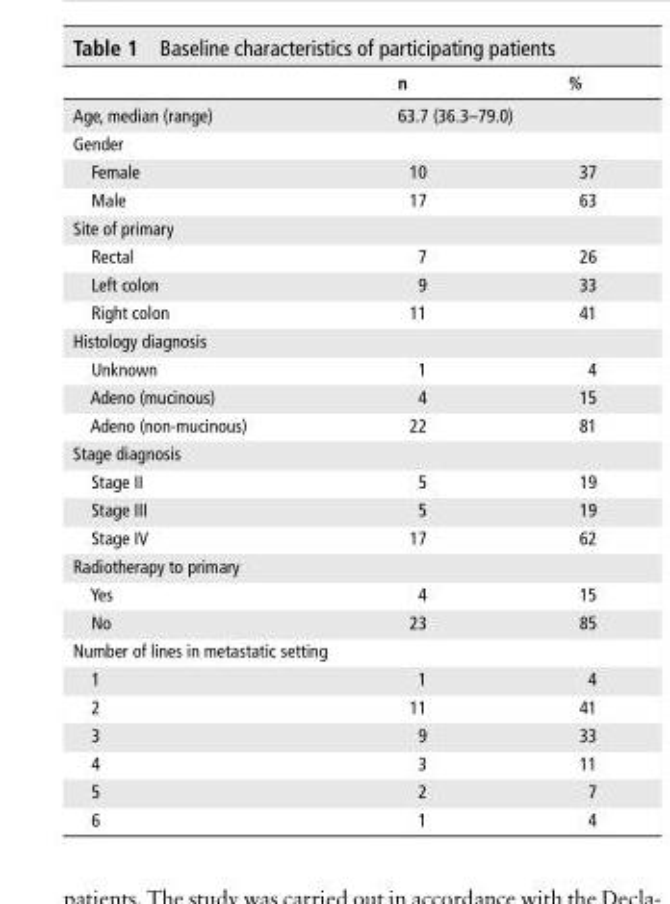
<table><thead><tr><td></td><td>n</td><td>%</td></tr></thead><tbody><tr><td>Age, median (range)</td><td colspan="2">63.7 (36.3–79.0)</td></tr><tr><td colspan="3">Gender</td></tr><tr><td>Female</td><td>10</td><td>37</td></tr><tr><td>Male</td><td>17</td><td>63</td></tr><tr><td colspan="3">Site of primary</td></tr><tr><td>Rectal</td><td>7</td><td>26</td></tr><tr><td>Left colon</td><td>9</td><td>33</td></tr><tr><td>Right colon</td><td>11</td><td>41</td></tr><tr><td colspan="3">Histology diagnosis</td></tr><tr><td>Unknown</td><td>1</td><td>4</td></tr><tr><td>Adeno (mucinous)</td><td>4</td><td>15</td></tr><tr><td>Adeno (non-mucinous)</td><td>22</td><td>81</td></tr><tr><td colspan="3">Stage diagnosis</td></tr><tr><td>Stage II</td><td>5</td><td>19</td></tr><tr><td>Stage III</td><td>5</td><td>19</td></tr><tr><td>Stage IV</td><td>17</td><td>62</td></tr><tr><td colspan="3">Radiotherapy to primary</td></tr><tr><td>Yes</td><td>4</td><td>15</td></tr><tr><td>No</td><td>23</td><td>85</td></tr><tr><td colspan="3">Number of lines in metastatic setting</td></tr><tr><td>1</td><td>1</td><td>4</td></tr><tr><td>2</td><td>11</td><td>41</td></tr><tr><td>3</td><td>9</td><td>33</td></tr><tr><td>4</td><td>3</td><td>11</td></tr><tr><td>5</td><td>2</td><td>7</td></tr><tr><td>6</td><td>1</td><td>4</td></tr></tbody></table>